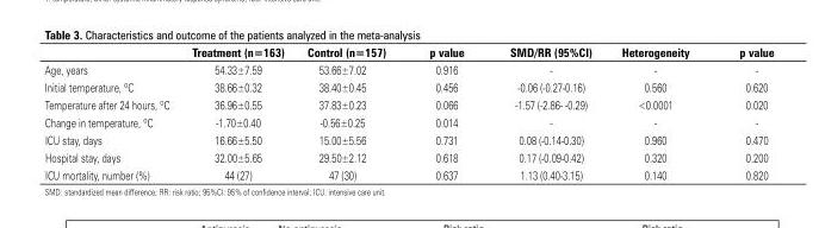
<table><thead><tr><td></td><td>Treatment (n=163)</td><td>Control (n=157)</td><td>p value</td><td>SMD/RR (95%CI)</td><td>Heterogeneity</td><td>p value</td></tr></thead><tbody><tr><td>Age, years</td><td>54.33±7.59</td><td>53.66±7.02</td><td>0.916</td><td>-</td><td>-</td><td>-</td></tr><tr><td>Initial temperature, ºC</td><td>38.66±0.32</td><td>38.40±0.45</td><td>0.456</td><td>-0.06 (-0.27-0.16)</td><td>0.560</td><td>0.620</td></tr><tr><td>Temperature after 24 hours, ºC</td><td>36.96±0.55</td><td>37.83±0.23</td><td>0.066</td><td>-1.57 (-2.86- -0.29)</td><td>&lt;0.0001</td><td>0.020</td></tr><tr><td>Change in temperature, ºC</td><td>-1.70±0.40</td><td>-0.56±0.25</td><td>0.014</td><td>-</td><td>-</td><td>-</td></tr><tr><td>ICU stay, days</td><td>16.66±5.50</td><td>15.00±5.56</td><td>0.731</td><td>0.08 (-0.14-0.30)</td><td>0.960</td><td>0.470</td></tr><tr><td>Hospital stay, days</td><td>32.00±5.65</td><td>29.50±2.12</td><td>0.618</td><td>0.17 (-0.09-0.42)</td><td>0.320</td><td>0.200</td></tr><tr><td>ICU mortality, number (%)</td><td>44 (27)</td><td>47 (30)</td><td>0.637</td><td>1.13 (0.40-3.15)</td><td>0.140</td><td>0.820</td></tr></tbody></table>